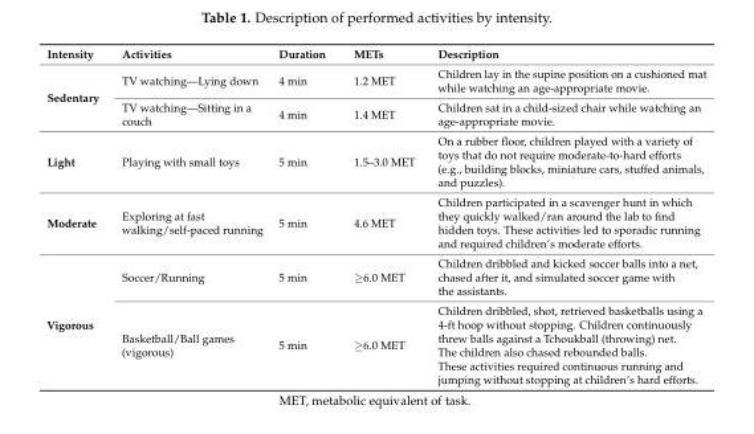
<table><thead><tr><td>Intensity</td><td>Activities</td><td>Duration</td><td>METs</td><td>Description</td></tr></thead><tbody><tr><td rowspan="2">Sedentary</td><td>TV watching—Lying down</td><td>4 min</td><td>1.2 MET</td><td>Children lay in the supine position on a cushioned mat while watching an age-appropriate movie.</td></tr><tr><td>TV watching—Sitting in a couch</td><td>4 min</td><td>1.4 MET</td><td>Children sat in a child-sized chair while watching an age-appropriate movie.</td></tr><tr><td>Light</td><td>Playing with small toys</td><td>5 min</td><td>1.5–3.0 MET</td><td>On a rubber floor, children played with a variety of toys that do not require moderate-to-hard efforts (e.g., building blocks, miniature cars, stuffed animals, and puzzles).</td></tr><tr><td>Moderate</td><td>Exploring at fast walking/self-paced running</td><td>5 min</td><td>4.6 MET</td><td>Children participated in a scavenger hunt in which they quickly walked/ran around the lab to find hidden toys. These activities led to sporadic running and required children’s moderate efforts.</td></tr><tr><td rowspan="2">Vigorous</td><td>Soccer/Running</td><td>5 min</td><td>≥6.0 MET</td><td>Children dribbled and kicked soccer balls into a net, chased after it, and simulated soccer game with the assistants.</td></tr><tr><td>Basketball/Ball games (vigorous)</td><td>5 min</td><td>≥6.0 MET</td><td>Children dribbled, shot, retrieved basketballs using a 4-ft hoop without stopping. Children continuously threw balls against a Tchoukball (throwing) net. The children also chased rebounded balls. These activities required continuous running and jumping without stopping at children’s hard efforts.</td></tr></tbody></table>